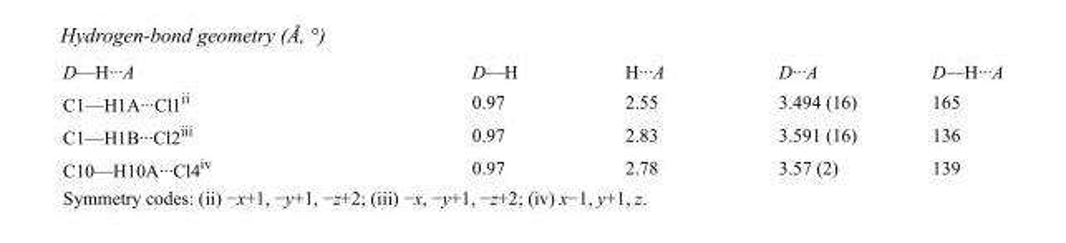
<table><tbody><tr><td>D—H···A</td><td>D—H</td><td>H···A</td><td>D···A</td><td>D—H···A</td></tr><tr><td>C1—H1A···Cl1<sup>ii</sup></td><td>0.97</td><td>2.55</td><td>3.494 (16)</td><td>165</td></tr><tr><td>C1—H1B···Cl2<sup>iii</sup></td><td>0.97</td><td>2.83</td><td>3.591 (16)</td><td>136</td></tr><tr><td>C10—H10A···Cl4<sup>iv</sup></td><td>0.97</td><td>2.78</td><td>3.57 (2)</td><td>139</td></tr></tbody></table>